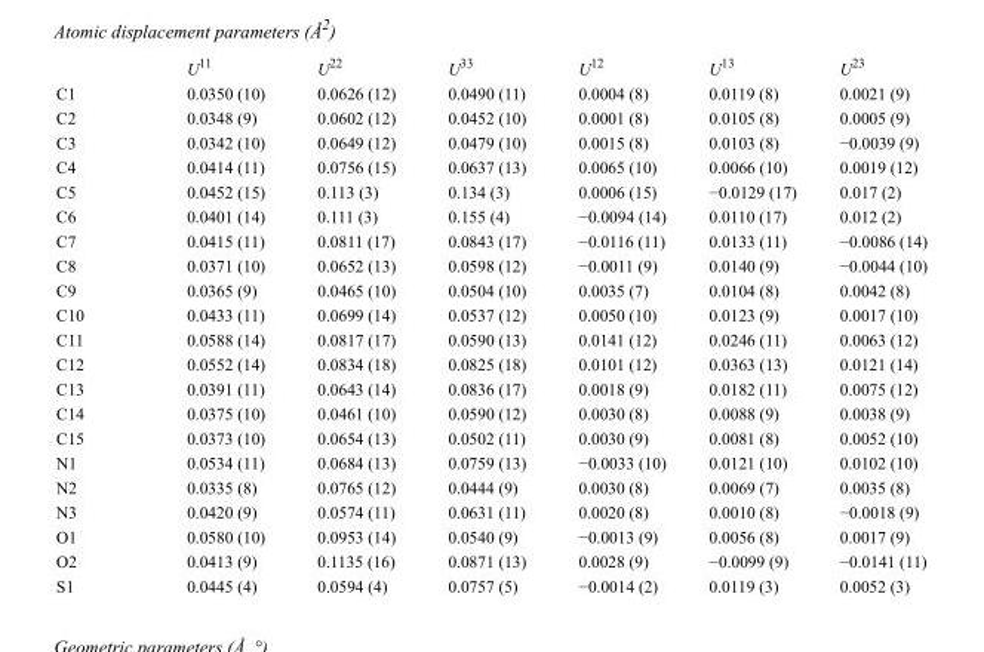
<table><thead><tr><td></td><td>U<sup>11</sup></td><td>U<sup>22</sup></td><td>U<sup>33</sup></td><td>U<sup>12</sup></td><td>U<sup>13</sup></td><td>U<sup>23</sup></td></tr></thead><tbody><tr><td>C1</td><td>0.0350 (10)</td><td>0.0626 (12)</td><td>0.0490 (11)</td><td>0.0004 (8)</td><td>0.0119 (8)</td><td>0.0021 (9)</td></tr><tr><td>C2</td><td>0.0348 (9)</td><td>0.0602 (12)</td><td>0.0452 (10)</td><td>0.0001 (8)</td><td>0.0105 (8)</td><td>0.0005 (9)</td></tr><tr><td>C3</td><td>0.0342 (10)</td><td>0.0649 (12)</td><td>0.0479 (10)</td><td>0.0015 (8)</td><td>0.0103 (8)</td><td>−0.0039 (9)</td></tr><tr><td>C4</td><td>0.0414 (11)</td><td>0.0756 (15)</td><td>0.0637 (13)</td><td>0.0065 (10)</td><td>0.0066 (10)</td><td>0.0019 (12)</td></tr><tr><td>C5</td><td>0.0452 (15)</td><td>0.113 (3)</td><td>0.134 (3)</td><td>0.0006 (15)</td><td>−0.0129 (17)</td><td>0.017 (2)</td></tr><tr><td>C6</td><td>0.0401 (14)</td><td>0.111 (3)</td><td>0.155 (4)</td><td>−0.0094 (14)</td><td>0.0110 (17)</td><td>0.012 (2)</td></tr><tr><td>C7</td><td>0.0415 (11)</td><td>0.0811 (17)</td><td>0.0843 (17)</td><td>−0.0116 (11)</td><td>0.0133 (11)</td><td>−0.0086 (14)</td></tr><tr><td>C8</td><td>0.0371 (10)</td><td>0.0652 (13)</td><td>0.0598 (12)</td><td>−0.0011 (9)</td><td>0.0140 (9)</td><td>−0.0044 (10)</td></tr><tr><td>C9</td><td>0.0365 (9)</td><td>0.0465 (10)</td><td>0.0504 (10)</td><td>0.0035 (7)</td><td>0.0104 (8)</td><td>0.0042 (8)</td></tr><tr><td>C10</td><td>0.0433 (11)</td><td>0.0699 (14)</td><td>0.0537 (12)</td><td>0.0050 (10)</td><td>0.0123 (9)</td><td>0.0017 (10)</td></tr><tr><td>C11</td><td>0.0588 (14)</td><td>0.0817 (17)</td><td>0.0590 (13)</td><td>0.0141 (12)</td><td>0.0246 (11)</td><td>0.0063 (12)</td></tr><tr><td>C12</td><td>0.0552 (14)</td><td>0.0834 (18)</td><td>0.0825 (18)</td><td>0.0101 (12)</td><td>0.0363 (13)</td><td>0.0121 (14)</td></tr><tr><td>C13</td><td>0.0391 (11)</td><td>0.0643 (14)</td><td>0.0836 (17)</td><td>0.0018 (9)</td><td>0.0182 (11)</td><td>0.0075 (12)</td></tr><tr><td>C14</td><td>0.0375 (10)</td><td>0.0461 (10)</td><td>0.0590 (12)</td><td>0.0030 (8)</td><td>0.0088 (9)</td><td>0.0038 (9)</td></tr><tr><td>C15</td><td>0.0373 (10)</td><td>0.0654 (13)</td><td>0.0502 (11)</td><td>0.0030 (9)</td><td>0.0081 (8)</td><td>0.0052 (10)</td></tr><tr><td>N1</td><td>0.0534 (11)</td><td>0.0684 (13)</td><td>0.0759 (13)</td><td>−0.0033 (10)</td><td>0.0121 (10)</td><td>0.0102 (10)</td></tr><tr><td>N2</td><td>0.0335 (8)</td><td>0.0765 (12)</td><td>0.0444 (9)</td><td>0.0030 (8)</td><td>0.0069 (7)</td><td>0.0035 (8)</td></tr><tr><td>N3</td><td>0.0420 (9)</td><td>0.0574 (11)</td><td>0.0631 (11)</td><td>0.0020 (8)</td><td>0.0010 (8)</td><td>−0.0018 (9)</td></tr><tr><td>O1</td><td>0.0580 (10)</td><td>0.0953 (14)</td><td>0.0540 (9)</td><td>−0.0013 (9)</td><td>0.0056 (8)</td><td>0.0017 (9)</td></tr><tr><td>O2</td><td>0.0413 (9)</td><td>0.1135 (16)</td><td>0.0871 (13)</td><td>0.0028 (9)</td><td>−0.0099 (9)</td><td>−0.0141 (11)</td></tr><tr><td>S1</td><td>0.0445 (4)</td><td>0.0594 (4)</td><td>0.0757 (5)</td><td>−0.0014 (2)</td><td>0.0119 (3)</td><td>0.0052 (3)</td></tr></tbody></table>